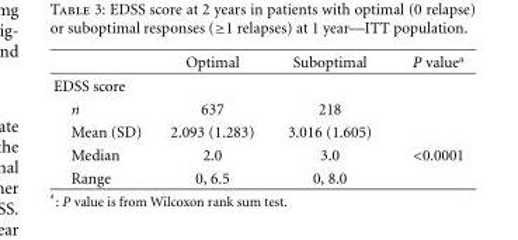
<table><thead><tr><td></td><td>Optimal</td><td>Suboptimal</td><td>P value<sup>a</sup></td></tr></thead><tbody><tr><td colspan="4">EDSS score</td></tr><tr><td>n</td><td>637</td><td>218</td><td></td></tr><tr><td>Mean (SD)</td><td>2.093 (1.283)</td><td>3.016 (1.605)</td><td></td></tr><tr><td>Median</td><td>2.0</td><td>3.0</td><td>&lt;0.0001</td></tr><tr><td>Range</td><td>0, 6.5</td><td>0, 8.0</td><td></td></tr></tbody></table>